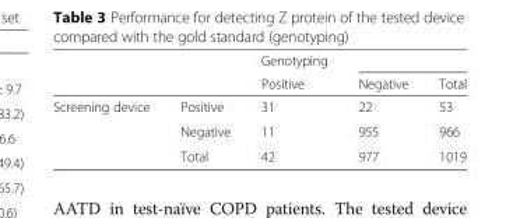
<table><thead><tr><td rowspan="2"></td><td rowspan="2"></td><td rowspan="2">Genotyping Positive</td><td rowspan="2">Negative</td><td rowspan="2">Total</td></tr><tr></tr></thead><tbody><tr><td rowspan="3">Screening device</td><td>Positive</td><td>31</td><td>22</td><td>53</td></tr><tr><td>Negative</td><td>11</td><td>955</td><td>966</td></tr><tr><td>Total</td><td>42</td><td>977</td><td>1019</td></tr></tbody></table>